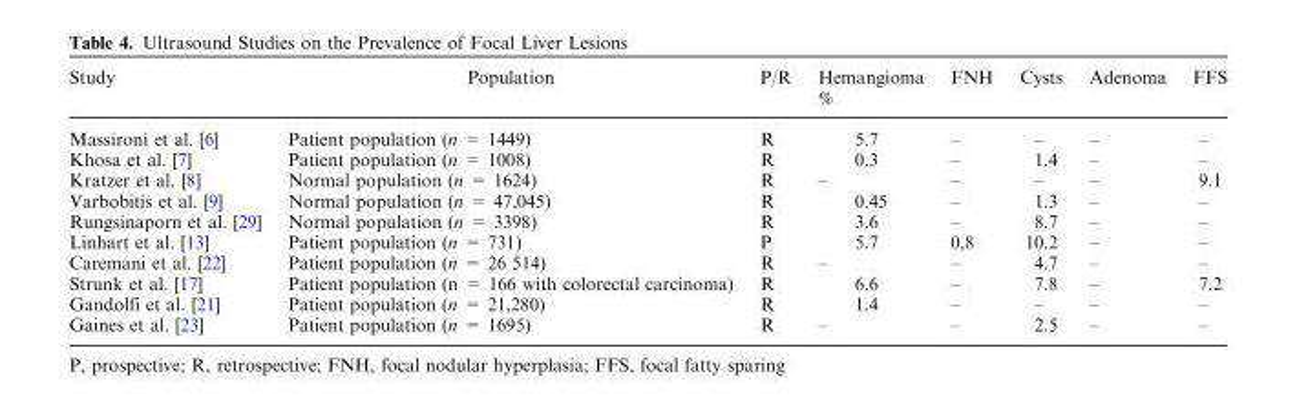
<table><thead><tr><td rowspan="2">Study</td><td rowspan="2">Population</td><td rowspan="2">P/R</td><td>Hemangioma</td><td>FNH</td><td>Cysts</td><td>Adenoma</td><td>FFS</td></tr><tr><td colspan="5">%</td></tr></thead><tbody><tr><td>Massironi et al. [6]</td><td>Patient population (n = 1449)</td><td>R</td><td>5.7</td><td>–</td><td>–</td><td>–</td><td>–</td></tr><tr><td>Khosa et al. [7]</td><td>Patient population (n = 1008)</td><td>R</td><td>0.3</td><td>–</td><td>1.4</td><td>–</td><td>–</td></tr><tr><td>Kratzer et al. [8]</td><td>Normal population (n = 1624)</td><td>R</td><td>–</td><td>–</td><td>–</td><td>–</td><td>9.1</td></tr><tr><td>Varbobitis et al. [9]</td><td>Normal population (n = 47,045)</td><td>R</td><td>0.45</td><td>–</td><td>1.3</td><td>–</td><td>–</td></tr><tr><td>Rungsinaporn et al. [29]</td><td>Normal population (n = 3398)</td><td>R</td><td>3.6</td><td>–</td><td>8.7</td><td>–</td><td>–</td></tr><tr><td>Linhart et al. [13]</td><td>Patient population (n = 731)</td><td>P</td><td>5.7</td><td>0,8</td><td>10.2</td><td>–</td><td>–</td></tr><tr><td>Caremani et al. [22]</td><td>Patient population (n = 26 514)</td><td>R</td><td>–</td><td>–</td><td>4.7</td><td>–</td><td>–</td></tr><tr><td>Strunk et al. [17]</td><td>Patient population (n = 166 with colorectal carcinoma)</td><td>R</td><td>6.6</td><td>–</td><td>7.8</td><td>–</td><td>7.2</td></tr><tr><td>Gandolfi et al. [21]</td><td>Patient population (n = 21,280)</td><td>R</td><td>1.4</td><td>–</td><td>–</td><td>–</td><td>–</td></tr><tr><td>Gaines et al. [23]</td><td>Patient population (n = 1695)</td><td>R</td><td>–</td><td>–</td><td>2.5</td><td>–</td><td>–</td></tr></tbody></table>